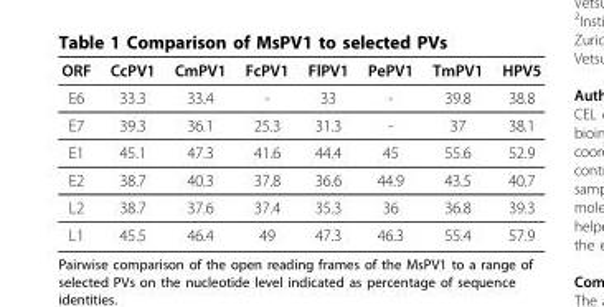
<table><thead><tr><td>ORF</td><td>CcPV1</td><td>CmPV1</td><td>FcPV1</td><td>FlPV1</td><td>PePV1</td><td>TmPV1</td><td>HPV5</td></tr></thead><tbody><tr><td>E6</td><td>33.3</td><td>33.4</td><td>-</td><td>33</td><td>-</td><td>39.8</td><td>38.8</td></tr><tr><td>E7</td><td>39.3</td><td>36.1</td><td>25.3</td><td>31.3</td><td>-</td><td>37</td><td>38.1</td></tr><tr><td>E1</td><td>45.1</td><td>47.3</td><td>41.6</td><td>44.4</td><td>45</td><td>55.6</td><td>52.9</td></tr><tr><td>E2</td><td>38.7</td><td>40.3</td><td>37.8</td><td>36.6</td><td>44.9</td><td>43.5</td><td>40.7</td></tr><tr><td>L2</td><td>38.7</td><td>37.6</td><td>37.4</td><td>35.3</td><td>36</td><td>36.8</td><td>39.3</td></tr><tr><td>L1</td><td>45.5</td><td>46.4</td><td>49</td><td>47.3</td><td>46.3</td><td>55.4</td><td>57.9</td></tr></tbody></table>